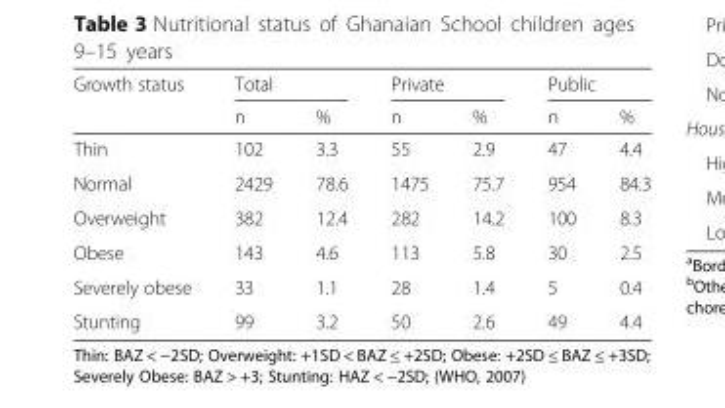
<table><thead><tr><td rowspan="2">Growth status</td><td colspan="2">Total</td><td colspan="2">Private</td><td colspan="2">Public</td></tr><tr><td>n</td><td>%</td><td>n</td><td>%</td><td>n</td><td>%</td></tr></thead><tbody><tr><td>Thin</td><td>102</td><td>3.3</td><td>55</td><td>2.9</td><td>47</td><td>4.4</td></tr><tr><td>Normal</td><td>2429</td><td>78.6</td><td>1475</td><td>75.7</td><td>954</td><td>84.3</td></tr><tr><td>Overweight</td><td>382</td><td>12.4</td><td>282</td><td>14.2</td><td>100</td><td>8.3</td></tr><tr><td>Obese</td><td>143</td><td>4.6</td><td>113</td><td>5.8</td><td>30</td><td>2.5</td></tr><tr><td>Severely obese</td><td>33</td><td>1.1</td><td>28</td><td>1.4</td><td>5</td><td>0.4</td></tr><tr><td>Stunting</td><td>99</td><td>3.2</td><td>50</td><td>2.6</td><td>49</td><td>4.4</td></tr></tbody></table>